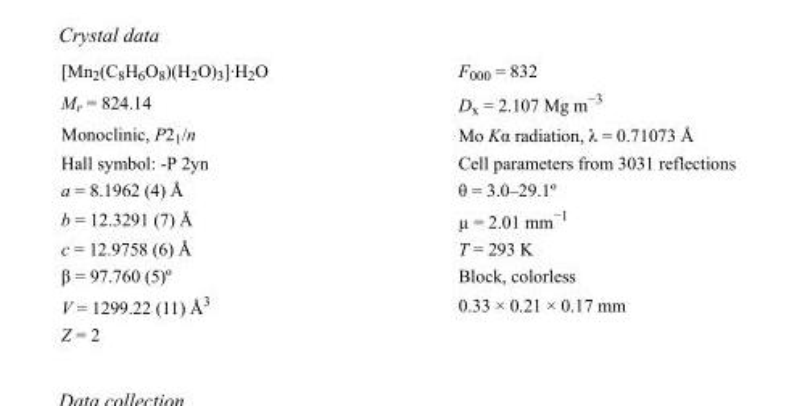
<table><tbody><tr><td>[Mn<sub>2</sub>(C<sub>8</sub>H<sub>6</sub>O<sub>8</sub>)(H<sub>2</sub>O)<sub>3</sub>]·H<sub>2</sub>O</td><td>F000 = 832</td></tr><tr><td>M<sub>r</sub> = 824.14</td><td>D<sub>x</sub> = 2.107 Mg m<sup>−3</sup></td></tr><tr><td>Monoclinic, P2<sub>1</sub>/n</td><td>Mo Kα radiation, λ = 0.71073 Å</td></tr><tr><td>Hall symbol: -P 2yn</td><td>Cell parameters from 3031 reflections</td></tr><tr><td>a = 8.1962 (4) Å</td><td>θ = 3.0–29.1º</td></tr><tr><td>b = 12.3291 (7) Å</td><td>µ = 2.01 mm<sup>−1</sup></td></tr><tr><td>c = 12.9758 (6) Å</td><td>T = 293 K</td></tr><tr><td>β = 97.760 (5)º</td><td>Block, colorless</td></tr><tr><td>V = 1299.22 (11) Å<sup>3</sup></td><td>0.33 × 0.21 × 0.17 mm</td></tr><tr><td>Z = 2</td><td></td></tr></tbody></table>